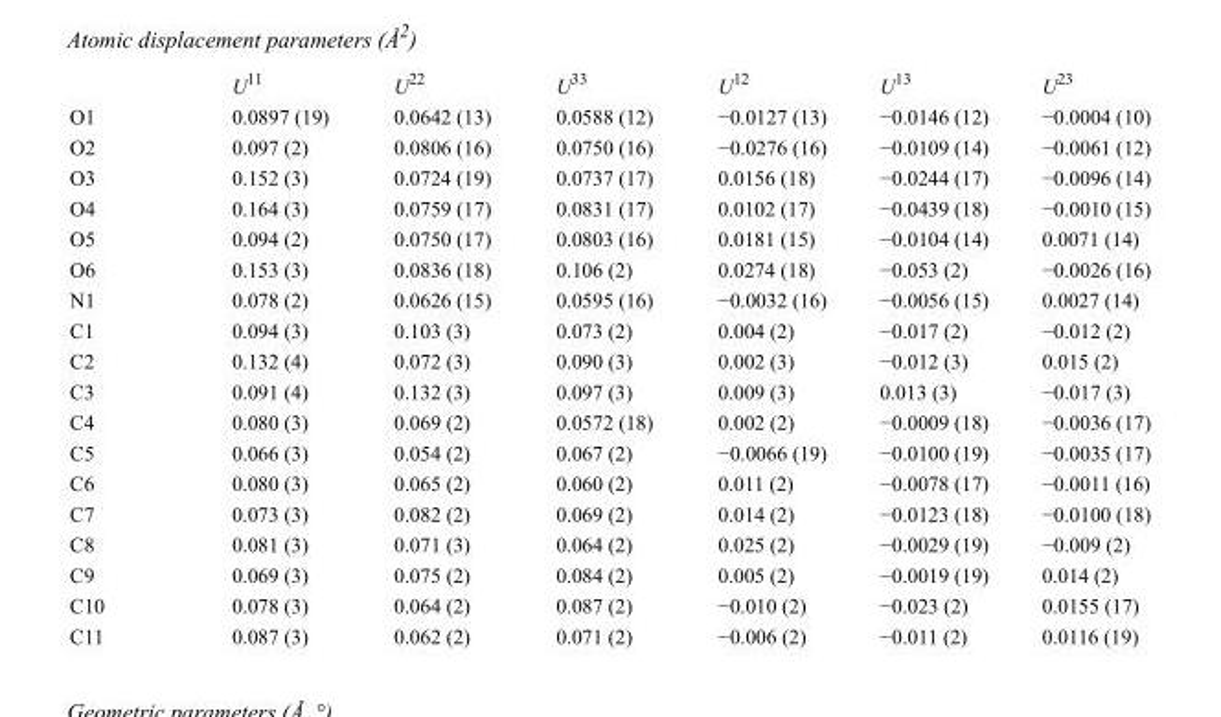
<table><thead><tr><td></td><td>U<sup>11</sup></td><td>U<sup>22</sup></td><td>U<sup>33</sup></td><td>U<sup>12</sup></td><td>U<sup>13</sup></td><td>U<sup>23</sup></td></tr></thead><tbody><tr><td>O1</td><td>0.0897 (19)</td><td>0.0642 (13)</td><td>0.0588 (12)</td><td>−0.0127 (13)</td><td>−0.0146 (12)</td><td>−0.0004 (10)</td></tr><tr><td>O2</td><td>0.097 (2)</td><td>0.0806 (16)</td><td>0.0750 (16)</td><td>−0.0276 (16)</td><td>−0.0109 (14)</td><td>−0.0061 (12)</td></tr><tr><td>O3</td><td>0.152 (3)</td><td>0.0724 (19)</td><td>0.0737 (17)</td><td>0.0156 (18)</td><td>−0.0244 (17)</td><td>−0.0096 (14)</td></tr><tr><td>O4</td><td>0.164 (3)</td><td>0.0759 (17)</td><td>0.0831 (17)</td><td>0.0102 (17)</td><td>−0.0439 (18)</td><td>−0.0010 (15)</td></tr><tr><td>O5</td><td>0.094 (2)</td><td>0.0750 (17)</td><td>0.0803 (16)</td><td>0.0181 (15)</td><td>−0.0104 (14)</td><td>0.0071 (14)</td></tr><tr><td>O6</td><td>0.153 (3)</td><td>0.0836 (18)</td><td>0.106 (2)</td><td>0.0274 (18)</td><td>−0.053 (2)</td><td>−0.0026 (16)</td></tr><tr><td>N1</td><td>0.078 (2)</td><td>0.0626 (15)</td><td>0.0595 (16)</td><td>−0.0032 (16)</td><td>−0.0056 (15)</td><td>0.0027 (14)</td></tr><tr><td>C1</td><td>0.094 (3)</td><td>0.103 (3)</td><td>0.073 (2)</td><td>0.004 (2)</td><td>−0.017 (2)</td><td>−0.012 (2)</td></tr><tr><td>C2</td><td>0.132 (4)</td><td>0.072 (3)</td><td>0.090 (3)</td><td>0.002 (3)</td><td>−0.012 (3)</td><td>0.015 (2)</td></tr><tr><td>C3</td><td>0.091 (4)</td><td>0.132 (3)</td><td>0.097 (3)</td><td>0.009 (3)</td><td>0.013 (3)</td><td>−0.017 (3)</td></tr><tr><td>C4</td><td>0.080 (3)</td><td>0.069 (2)</td><td>0.0572 (18)</td><td>0.002 (2)</td><td>−0.0009 (18)</td><td>−0.0036 (17)</td></tr><tr><td>C5</td><td>0.066 (3)</td><td>0.054 (2)</td><td>0.067 (2)</td><td>−0.0066 (19)</td><td>−0.0100 (19)</td><td>−0.0035 (17)</td></tr><tr><td>C6</td><td>0.080 (3)</td><td>0.065 (2)</td><td>0.060 (2)</td><td>0.011 (2)</td><td>−0.0078 (17)</td><td>−0.0011 (16)</td></tr><tr><td>C7</td><td>0.073 (3)</td><td>0.082 (2)</td><td>0.069 (2)</td><td>0.014 (2)</td><td>−0.0123 (18)</td><td>−0.0100 (18)</td></tr><tr><td>C8</td><td>0.081 (3)</td><td>0.071 (3)</td><td>0.064 (2)</td><td>0.025 (2)</td><td>−0.0029 (19)</td><td>−0.009 (2)</td></tr><tr><td>C9</td><td>0.069 (3)</td><td>0.075 (2)</td><td>0.084 (2)</td><td>0.005 (2)</td><td>−0.0019 (19)</td><td>0.014 (2)</td></tr><tr><td>C10</td><td>0.078 (3)</td><td>0.064 (2)</td><td>0.087 (2)</td><td>−0.010 (2)</td><td>−0.023 (2)</td><td>0.0155 (17)</td></tr><tr><td>C11</td><td>0.087 (3)</td><td>0.062 (2)</td><td>0.071 (2)</td><td>−0.006 (2)</td><td>−0.011 (2)</td><td>0.0116 (19)</td></tr></tbody></table>